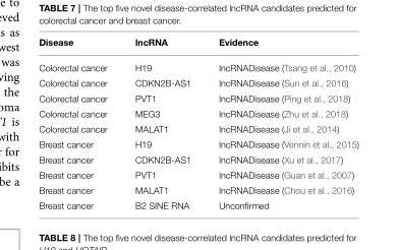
<table><thead><tr><td>Disease</td><td>lncRNA</td><td>Evidence</td></tr></thead><tbody><tr><td>Colorectal cancer</td><td>H19</td><td>lncRNADisease (Tsang et al., 2010)</td></tr><tr><td>Colorectal cancer</td><td>CDKN2B-AS1</td><td>lncRNADisease (Sun et al., 2016)</td></tr><tr><td>Colorectal cancer</td><td>PVT1</td><td>lncRNADisease (Ping et al., 2018)</td></tr><tr><td>Colorectal cancer</td><td>MEG3</td><td>lncRNADisease (Zhu et al., 2018)</td></tr><tr><td>Colorectal cancer</td><td>MALAT1</td><td>lncRNADisease (Ji et al., 2014)</td></tr><tr><td>Breast cancer</td><td>H19</td><td>lncRNADisease (Vennin et al., 2015)</td></tr><tr><td>Breast cancer</td><td>CDKN2B-AS1</td><td>lncRNADisease (Xu et al., 2017)</td></tr><tr><td>Breast cancer</td><td>PVT1</td><td>lncRNADisease (Guan et al., 2007)</td></tr><tr><td>Breast cancer</td><td>MALAT1</td><td>lncRNADisease (Chou et al., 2016)</td></tr><tr><td>Breast cancer</td><td>B2 SINE RNA</td><td>Unconfirmed</td></tr></tbody></table>